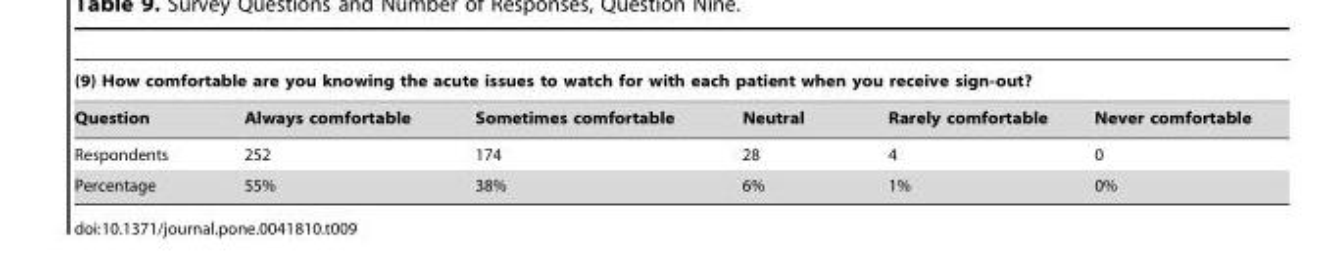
<table><thead><tr><td colspan="6">(9) How comfortable are you knowing the acute issues to watch for with each patient when you receive sign-out?</td></tr><tr><td>Question</td><td>Always comfortable</td><td>Sometimes comfortable</td><td>Neutral</td><td>Rarely comfortable</td><td>Never comfortable</td></tr></thead><tbody><tr><td>Respondents</td><td>252</td><td>174</td><td>28</td><td>4</td><td>0</td></tr><tr><td>Percentage</td><td>55%</td><td>38%</td><td>6%</td><td>1%</td><td>0%</td></tr></tbody></table>